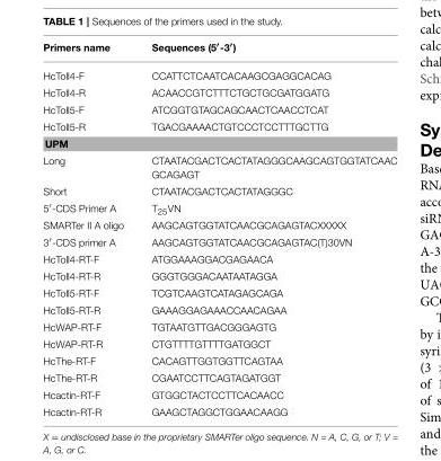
<table><thead><tr><td>Primers name</td><td>Sequences (5′-3′)</td></tr></thead><tbody><tr><td>HcToll4-F</td><td>CCATTCTCAATCACAAGCGAGGCACAG</td></tr><tr><td>HcToll4-R</td><td>ACAACCGTCTTTCTGCTGCGATGGATG</td></tr><tr><td>HcToll5-F</td><td>ATCGGTGTAGCAGCAACTCAACCTCAT</td></tr><tr><td>HcToll5-R</td><td>TGACGAAAACTGTCCCTCCTTTGCTTG</td></tr><tr><td colspan="2">UPM</td></tr><tr><td>Long</td><td>CTAATACGACTCACTATAGGGCAAGCAGTGGTATCAAC GCAGAGT</td></tr><tr><td>Short</td><td>CTAATACGACTCACTATAGGGC</td></tr><tr><td>5′-CDS Primer A</td><td>T<sub>25</sub>VN</td></tr><tr><td>SMARTer II A oligo</td><td>AAGCAGTGGTATCAACGCAGAGTACXXXXX</td></tr><tr><td>3′-CDS primer A</td><td>AAGCAGTGGTATCAACGCAGAGTAC(T)30VN</td></tr><tr><td>HcToll4-RT-F</td><td>ATGGAAAGGACGAGAACA</td></tr><tr><td>HcToll4-RT-R</td><td>GGGTGGGACAATAATAGGA</td></tr><tr><td>HcToll5-RT-F</td><td>TCGTCAAGTCATAGAGCAGA</td></tr><tr><td>HcToll5-RT-R</td><td>GAAAGGAGAAACCAACAGAA</td></tr><tr><td>HcWAP-RT-F</td><td>TGTAATGTTGACGGGAGTG</td></tr><tr><td>HcWAP-RT-R</td><td>CTGTTTTGTTTTGATGGCT</td></tr><tr><td>HcThe-RT-F</td><td>CACAGTTGGTGGTTCAGTAA</td></tr><tr><td>HcThe-RT-R</td><td>CGAATCCTTCAGTAGATGGT</td></tr><tr><td>Hcactin-RT-F</td><td>GTGGCTACTCCTTCACAACC</td></tr><tr><td>Hcactin-RT-R</td><td>GAAGCTAGGCTGGAACAAGG</td></tr></tbody></table>